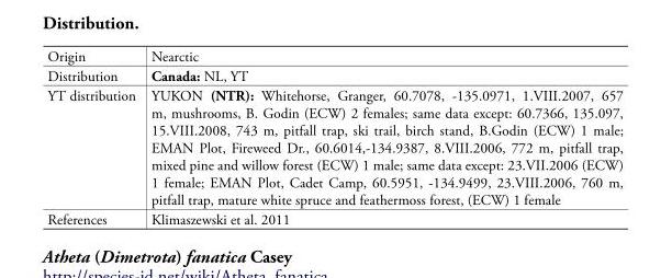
<table><tbody><tr><td>Origin</td><td>Nearctic</td></tr><tr><td>Distribution</td><td>Canada: NL, YT</td></tr><tr><td>YT distribution</td><td>YUKON (NTR): Whitehorse, Granger, 60.7078, -135.0971, 1.VIII.2007, 657 m, mushrooms, B. Godin (ECW) 2 females; same data except: 60.7366, 135.097, 15.VIII.2008, 743 m, pitfall trap, ski trail, birch stand, B.Godin (ECW) 1 male; EMAN Plot, Fireweed Dr., 60.6014,-134.9387, 8.VIII.2006, 772 m, pitfall trap, mixed pine and willow forest (ECW) 1 male; same data except: 23.VII.2006 (ECW) 1 female; EMAN Plot, Cadet Camp, 60.5951, -134.9499, 23.VIII.2006, 760 m, pitfall trap, mature white spruce and feathermoss forest, (ECW) 1 female</td></tr><tr><td>References</td><td>Klimaszewski et al. 2011</td></tr></tbody></table>